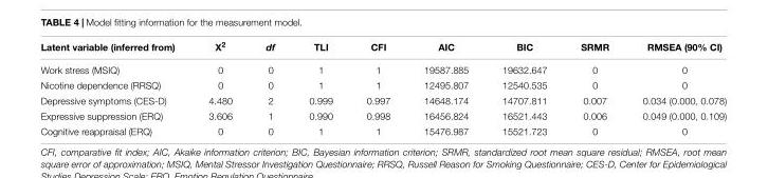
<table><thead><tr><td>Latent variable (inferred from)</td><td>X<sup>2</sup></td><td>df</td><td>TLI</td><td>CFI</td><td>AIC</td><td>BIC</td><td>SRMR</td><td>RMSEA (90% CI)</td></tr></thead><tbody><tr><td>Work stress (MSIQ)</td><td>0</td><td>0</td><td>1</td><td>1</td><td>19587.885</td><td>19632.647</td><td>0</td><td>0</td></tr><tr><td>Nicotine dependence (RRSQ)</td><td>0</td><td>0</td><td>1</td><td>1</td><td>12495.807</td><td>12540.535</td><td>0</td><td>0</td></tr><tr><td>Depressive symptoms (CES-D)</td><td>4.480</td><td>2</td><td>0.999</td><td>0.997</td><td>14648.174</td><td>14707.811</td><td>0.007</td><td>0.034 (0.000, 0.078)</td></tr><tr><td>Expressive suppression (ERQ)</td><td>3.606</td><td>1</td><td>0.990</td><td>0.998</td><td>16456.824</td><td>16521.443</td><td>0.006</td><td>0.049 (0.000, 0.109)</td></tr><tr><td>Cognitive reappraisal (ERQ)</td><td>0</td><td>0</td><td>1</td><td>1</td><td>15476.987</td><td>15521.723</td><td>0</td><td>0</td></tr></tbody></table>